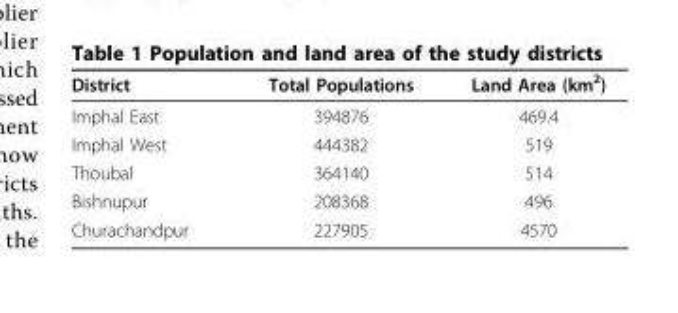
<table><thead><tr><td>District</td><td>Total Populations</td><td>Land Area (km<sup>2</sup>)</td></tr></thead><tbody><tr><td>Imphal East</td><td>394876</td><td>469.4</td></tr><tr><td>Imphal West</td><td>444382</td><td>519</td></tr><tr><td>Thoubal</td><td>364140</td><td>514</td></tr><tr><td>Bishnupur</td><td>208368</td><td>496</td></tr><tr><td>Churachandpur</td><td>227905</td><td>4570</td></tr></tbody></table>